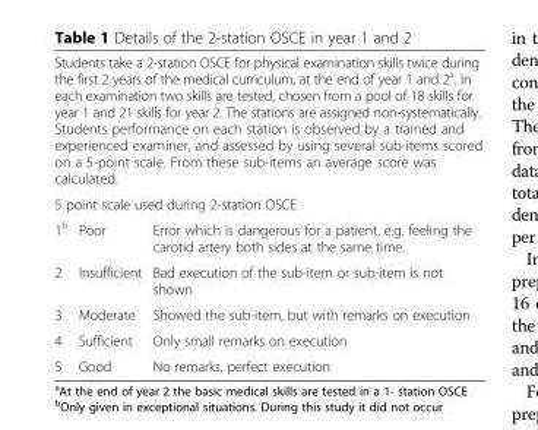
<table><tbody><tr><td colspan="3">Students take a 2-station OSCE for physical examination skills twice during the first 2 years of the medical curriculum, at the end of year 1 and 2<sup>a</sup>. In each examination two skills are tested, chosen from a pool of 18 skills for year 1 and 21 skills for year 2. The stations are assigned non-systematically. Students performance on each station is observed by a trained and experienced examiner, and assessed by using several sub-items scored on a 5-point scale. From these sub-items an average score was calculated.</td></tr><tr><td colspan="3">5 point scale used during 2-station OSCE</td></tr><tr><td>1<sup>b</sup></td><td>Poor</td><td>Error which is dangerous for a patient, e.g. feeling the carotid artery both sides at the same time.</td></tr><tr><td>2</td><td>Insufficient</td><td>Bad execution of the sub-item or sub-item is not shown</td></tr><tr><td>3</td><td>Moderate</td><td>Showed the sub-item, but with remarks on execution</td></tr><tr><td>4</td><td>Sufficient</td><td>Only small remarks on execution</td></tr><tr><td>5</td><td>Good</td><td>No remarks, perfect execution</td></tr></tbody></table>